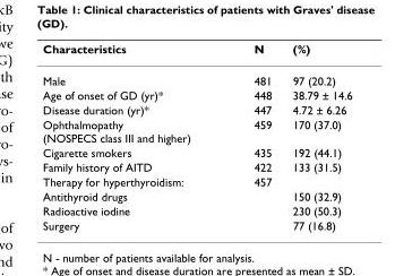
<table><thead><tr><td>Characteristics</td><td>N</td><td>(%)</td></tr></thead><tbody><tr><td>Male</td><td>481</td><td>97 (20.2)</td></tr><tr><td>Age of onset of GD (yr)*</td><td>448</td><td>38.79 ± 14.6</td></tr><tr><td>Disease duration (yr)*</td><td>447</td><td>4.72 ± 6.26</td></tr><tr><td>Ophthalmopathy (NOSPECS class III and higher)</td><td>459</td><td>170 (37.0)</td></tr><tr><td>Cigarette smokers</td><td>435</td><td>192 (44.1)</td></tr><tr><td>Family history of AITD</td><td>422</td><td>133 (31.5)</td></tr><tr><td>Therapy for hyperthyroidism:</td><td>457</td><td></td></tr><tr><td>Antithyroid drugs</td><td></td><td>150 (32.9)</td></tr><tr><td>Radioactive iodine</td><td></td><td>230 (50.3)</td></tr><tr><td>Surgery</td><td></td><td>77 (16.8)</td></tr></tbody></table>